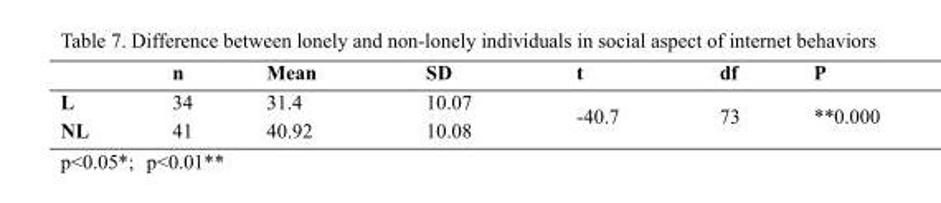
<table><thead><tr><td></td><td>n</td><td>Mean</td><td>SD</td><td>t</td><td>df</td><td>P</td></tr></thead><tbody><tr><td>L</td><td>34</td><td>31.4</td><td>10.07</td><td rowspan="2">-40.7</td><td rowspan="2">73</td><td rowspan="2">**0.000</td></tr><tr><td>NL</td><td>41</td><td>40.92</td><td>10.08</td></tr></tbody></table>